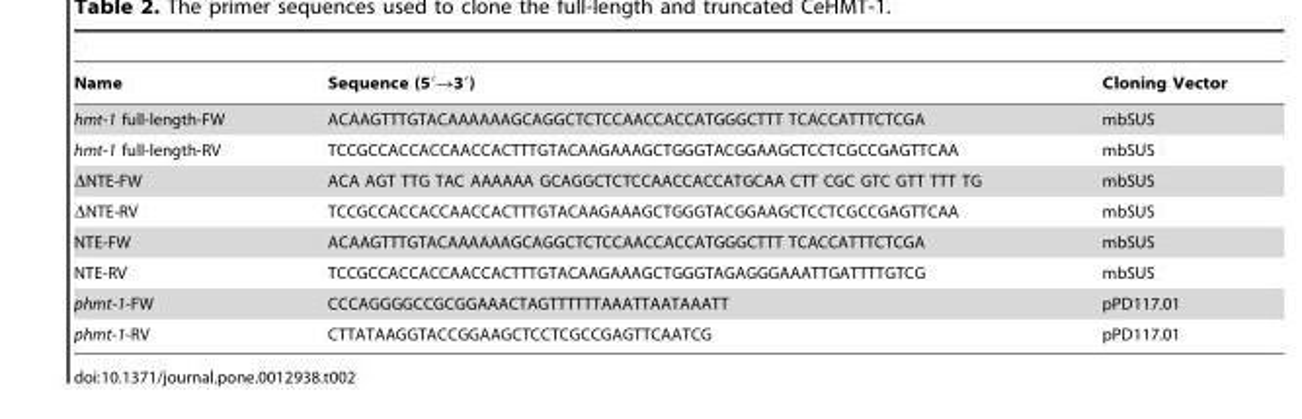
<table><thead><tr><td>Name</td><td>Sequence (5′→3′)</td><td>Cloning Vector</td></tr></thead><tbody><tr><td>hmt-1 full-length-FW</td><td>ACAAGTTTGTACAAAAAAGCAGGCTCTCCAACCACCATGGGCTTT TCACCATTTCTCGA</td><td>mbSUS</td></tr><tr><td>hmt-1 full-length-RV</td><td>TCCGCCACCACCAACCACTTTGTACAAGAAAGCTGGGTACGGAAGCTCCTCGCCGAGTTCAA</td><td>mbSUS</td></tr><tr><td>ΔNTE-FW</td><td>ACA AGT TTG TAC AAAAAA GCAGGCTCTCCAACCACCATGCAA CTT CGC GTC GTT TTT TG</td><td>mbSUS</td></tr><tr><td>ΔNTE-RV</td><td>TCCGCCACCACCAACCACTTTGTACAAGAAAGCTGGGTACGGAAGCTCCTCGCCGAGTTCAA</td><td>mbSUS</td></tr><tr><td>NTE-FW</td><td>ACAAGTTTGTACAAAAAAGCAGGCTCTCCAACCACCATGGGCTTT TCACCATTTCTCGA</td><td>mbSUS</td></tr><tr><td>NTE-RV</td><td>TCCGCCACCACCAACCACTTTGTACAAGAAAGCTGGGTAGAGGGAAATTGATTTTGTCG</td><td>mbSUS</td></tr><tr><td>phmt-1-FW</td><td>CCCAGGGGCCGCGGAAACTAGTTTTTTAAATTAATAAATT</td><td>pPD117.01</td></tr><tr><td>phmt-1-RV</td><td>CTTATAAGGTACCGGAAGCTCCTCGCCGAGTTCAATCG</td><td>pPD117.01</td></tr></tbody></table>